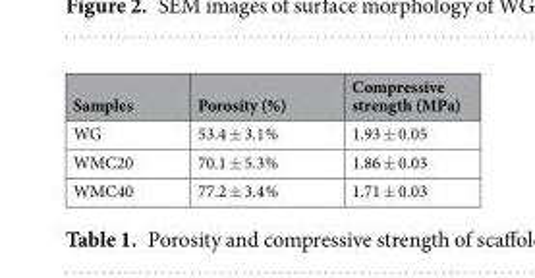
<table><thead><tr><td>Samples</td><td>Porosity (%)</td><td>Compressive strength (MPa)</td></tr></thead><tbody><tr><td>WG</td><td>53.4 ± 3.1%</td><td>1.93 ± 0.05</td></tr><tr><td>WMC20</td><td>70.1 ± 5.3%</td><td>1.86 ± 0.03</td></tr><tr><td>WMC40</td><td>77.2 ± 3.4%</td><td>1.71 ± 0.03</td></tr></tbody></table>